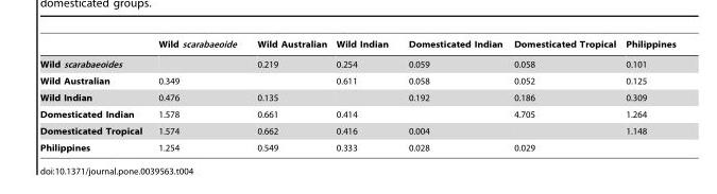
<table><thead><tr><td></td><td>Wild scarabaeoide</td><td>Wild Australian</td><td>Wild Indian</td><td>Domesticated Indian</td><td>Domesticated Tropical</td><td>Philippines</td></tr></thead><tbody><tr><td>Wild scarabaeoides</td><td></td><td>0.219</td><td>0.254</td><td>0.059</td><td>0.058</td><td>0.101</td></tr><tr><td>Wild Australian</td><td>0.349</td><td></td><td>0.611</td><td>0.058</td><td>0.052</td><td>0.125</td></tr><tr><td>Wild Indian</td><td>0.476</td><td>0.135</td><td></td><td>0.192</td><td>0.186</td><td>0.309</td></tr><tr><td>Domesticated Indian</td><td>1.578</td><td>0.661</td><td>0.414</td><td></td><td>4.705</td><td>1.264</td></tr><tr><td>Domesticated Tropical</td><td>1.574</td><td>0.662</td><td>0.416</td><td>0.004</td><td></td><td>1.148</td></tr><tr><td>Philippines</td><td>1.254</td><td>0.549</td><td>0.333</td><td>0.028</td><td>0.029</td><td></td></tr></tbody></table>